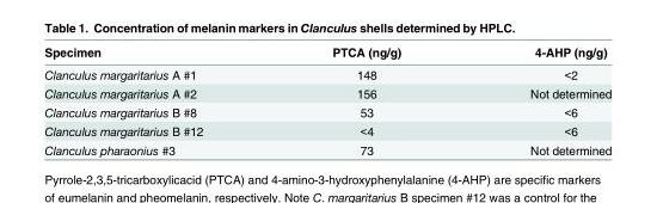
<table><thead><tr><td>Specimen</td><td>PTCA (ng/g)</td><td>4-AHP (ng/g)</td></tr></thead><tbody><tr><td>Clanculus margaritarius A #1</td><td>148</td><td>&lt;2</td></tr><tr><td>Clanculus margaritarius A #2</td><td>156</td><td>Not determined</td></tr><tr><td>Clanculus margaritarius B #8</td><td>53</td><td>&lt;6</td></tr><tr><td>Clanculus margaritarius B #12</td><td>&lt;4</td><td>&lt;6</td></tr><tr><td>Clanculus pharaonius #3</td><td>73</td><td>Not determined</td></tr></tbody></table>